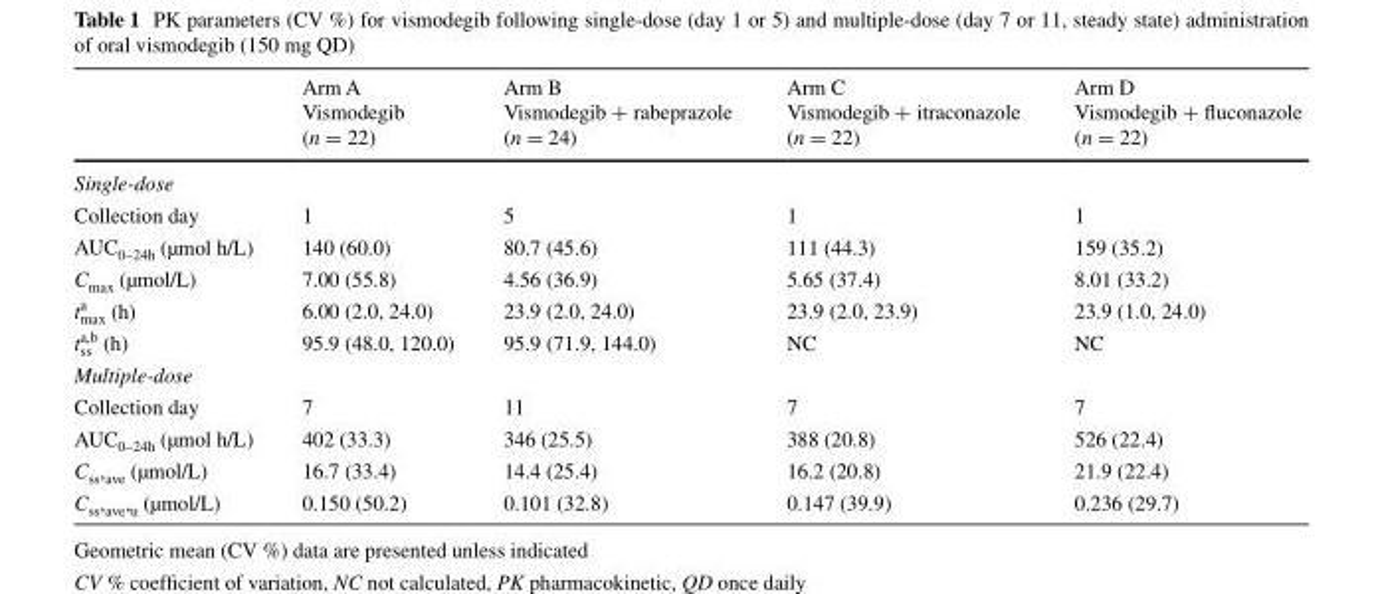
<table><thead><tr><td></td><td>Arm A Vismodegib (n = 22)</td><td>Arm B Vismodegib + rabeprazole (n = 24)</td><td>Arm C Vismodegib + itraconazole (n = 22)</td><td>Arm D Vismodegib + fluconazole (n = 22)</td></tr></thead><tbody><tr><td colspan="5">Single-dose</td></tr><tr><td>Collection day</td><td>1</td><td>5</td><td>1</td><td>1</td></tr><tr><td>AUC<sub>0–24h</sub> (µmol h/L)</td><td>140 (60.0)</td><td>80.7 (45.6)</td><td>111 (44.3)</td><td>159 (35.2)</td></tr><tr><td>C<sub>max</sub> (µmol/L)</td><td>7.00 (55.8)</td><td>4.56 (36.9)</td><td>5.65 (37.4)</td><td>8.01 (33.2)</td></tr><tr><td>ta max (h)</td><td>6.00 (2.0, 24.0)</td><td>23.9 (2.0, 24.0)</td><td>23.9 (2.0, 23.9)</td><td>23.9 (1.0, 24.0)</td></tr><tr><td>t<sub>ss</sub> <sup>a,b</sup> (h)</td><td>95.9 (48.0, 120.0)</td><td>95.9 (71.9, 144.0)</td><td>NC</td><td>NC</td></tr><tr><td colspan="5">Multiple-dose</td></tr><tr><td>Collection day</td><td>7</td><td>11</td><td>7</td><td>7</td></tr><tr><td>AUC<sub>0–24h</sub> (µmol h/L)</td><td>402 (33.3)</td><td>346 (25.5)</td><td>388 (20.8)</td><td>526 (22.4)</td></tr><tr><td>C<sub>ss</sub>,<sub>ave</sub> (µmol/L)</td><td>16.7 (33.4)</td><td>14.4 (25.4)</td><td>16.2 (20.8)</td><td>21.9 (22.4)</td></tr><tr><td>C<sub>ss</sub>,<sub>ave</sub>,<sub>u</sub> (µmol/L)</td><td>0.150 (50.2)</td><td>0.101 (32.8)</td><td>0.147 (39.9)</td><td>0.236 (29.7)</td></tr></tbody></table>